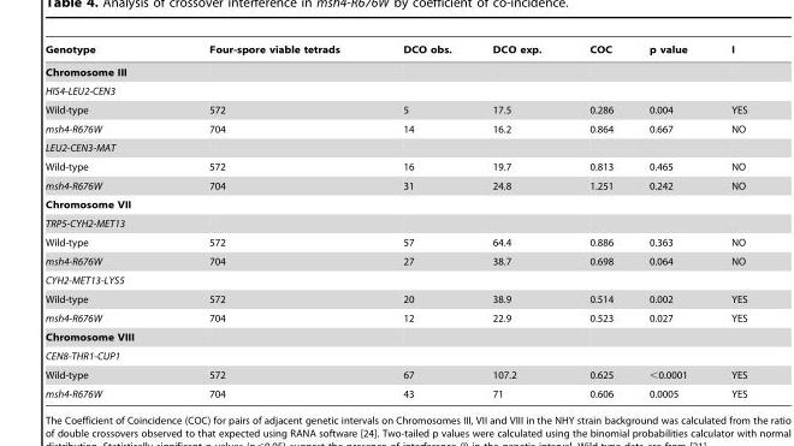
<table><thead><tr><td>Genotype</td><td>Four-spore viable tetrads</td><td>DCO obs.</td><td>DCO exp.</td><td>COC</td><td>p value</td><td>I</td></tr></thead><tbody><tr><td colspan="7">Chromosome III</td></tr><tr><td colspan="7">HIS4-LEU2-CEN3</td></tr><tr><td>Wild-type</td><td>572</td><td>5</td><td>17.5</td><td>0.286</td><td>0.004</td><td>YES</td></tr><tr><td>msh4-R676W</td><td>704</td><td>14</td><td>16.2</td><td>0.864</td><td>0.667</td><td>NO</td></tr><tr><td colspan="7">LEU2-CEN3-MAT</td></tr><tr><td>Wild-type</td><td>572</td><td>16</td><td>19.7</td><td>0.813</td><td>0.465</td><td>NO</td></tr><tr><td>msh4-R676W</td><td>704</td><td>31</td><td>24.8</td><td>1.251</td><td>0.242</td><td>NO</td></tr><tr><td colspan="7">Chromosome VII</td></tr><tr><td colspan="7">TRP5-CYH2-MET13</td></tr><tr><td>Wild-type</td><td>572</td><td>57</td><td>64.4</td><td>0.886</td><td>0.363</td><td>NO</td></tr><tr><td>msh4-R676W</td><td>704</td><td>27</td><td>38.7</td><td>0.698</td><td>0.064</td><td>NO</td></tr><tr><td colspan="7">CYH2-MET13-LYS5</td></tr><tr><td>Wild-type</td><td>572</td><td>20</td><td>38.9</td><td>0.514</td><td>0.002</td><td>YES</td></tr><tr><td>msh4-R676W</td><td>704</td><td>12</td><td>22.9</td><td>0.523</td><td>0.027</td><td>YES</td></tr><tr><td colspan="7">Chromosome VIII</td></tr><tr><td colspan="7">CEN8-THR1-CUP1</td></tr><tr><td>Wild-type</td><td>572</td><td>67</td><td>107.2</td><td>0.625</td><td>&lt;0.0001</td><td>YES</td></tr><tr><td>msh4-R676W</td><td>704</td><td>43</td><td>71</td><td>0.606</td><td>0.0005</td><td>YES</td></tr></tbody></table>